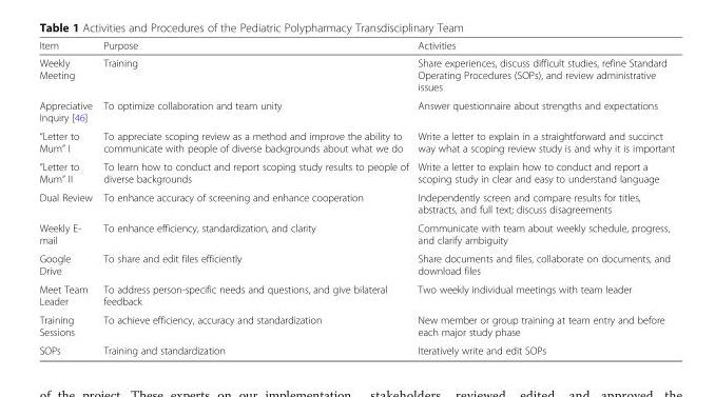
<table><thead><tr><td>Item</td><td>Purpose</td><td>Activities</td></tr></thead><tbody><tr><td>Weekly Meeting</td><td>Training</td><td>Share experiences, discuss difficult studies, refine Standard Operating Procedures (SOPs), and review administrative issues</td></tr><tr><td>Appreciative Inquiry [46]</td><td>To optimize collaboration and team unity</td><td>Answer questionnaire about strengths and expectations</td></tr><tr><td>“Letter to Mum” I</td><td>To appreciate scoping review as a method and improve the ability to communicate with people of diverse backgrounds about what we do</td><td>Write a letter to explain in a straightforward and succinct way what a scoping review study is and why it is important</td></tr><tr><td>“Letter to Mum” II</td><td>To learn how to conduct and report scoping study results to people of diverse backgrounds</td><td>Write a letter to explain how to conduct and report a scoping study in clear and easy to understand language</td></tr><tr><td>Dual Review</td><td>To enhance accuracy of screening and enhance cooperation</td><td>Independently screen and compare results for titles, abstracts, and full text; discuss disagreements</td></tr><tr><td>Weekly E- mail</td><td>To enhance efficiency, standardization, and clarity</td><td>Communicate with team about weekly schedule, progress, and clarify ambiguity</td></tr><tr><td>Google Drive</td><td>To share and edit files efficiently</td><td>Share documents and files, collaborate on documents, and download files</td></tr><tr><td>Meet Team Leader</td><td>To address person-specific needs and questions, and give bilateral feedback</td><td>Two weekly individual meetings with team leader</td></tr><tr><td>Training Sessions</td><td>To achieve efficiency, accuracy and standardization</td><td>New member or group training at team entry and before each major study phase</td></tr><tr><td>SOPs</td><td>Training and standardization</td><td>Iteratively write and edit SOPs</td></tr></tbody></table>